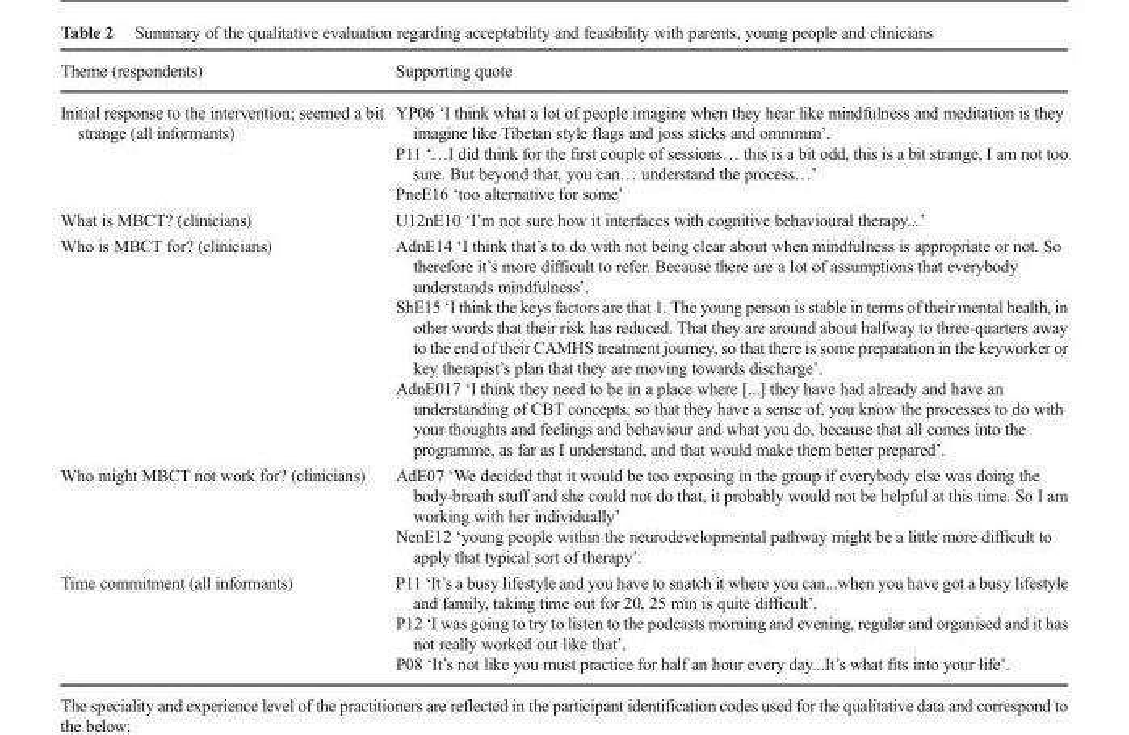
<table><thead><tr><td>Theme (respondents)</td><td>Supporting quote</td></tr></thead><tbody><tr><td>Initial response to the intervention; seemed a bit strange (all informants)</td><td>YP06 ‘I think what a lot of people imagine when they hear like mindfulness and meditation is they imagine like Tibetan style flags and joss sticks and ommmm’. P11 ‘…I did think for the first couple of sessions… this is a bit odd, this is a bit strange, I am not too sure. But beyond that, you can… understand the process…’ PneE16 ‘too alternative for some’</td></tr><tr><td>What is MBCT? (clinicians)</td><td>U12nE10 ‘I’m not sure how it interfaces with cognitive behavioural therapy...’</td></tr><tr><td>Who is MBCT for? (clinicians)</td><td>AdnE14 ‘I think that’s to do with not being clear about when mindfulness is appropriate or not. So therefore it’s more difficult to refer. Because there are a lot of assumptions that everybody understands mindfulness’. ShE15 ‘I think the keys factors are that 1. The young person is stable in terms of their mental health, in other words that their risk has reduced. That they are around about halfway to three-quarters away to the end of their CAMHS treatment journey, so that there is some preparation in the keyworker or key therapist’s plan that they are moving towards discharge’. AdnE017 ‘I think they need to be in a place where [...] they have had already and have an understanding of CBT concepts, so that they have a sense of, you know the processes to do with your thoughts and feelings and behaviour and what you do, because that all comes into the programme, as far as I understand, and that would make them better prepared’.</td></tr><tr><td>Who might MBCT not work for? (clinicians)</td><td>AdE07 ‘We decided that it would be too exposing in the group if everybody else was doing the body-breath stuff and she could not do that, it probably would not be helpful at this time. So I am working with her individually’ NenE12 ‘young people within the neurodevelopmental pathway might be a little more difficult to apply that typical sort of therapy’.</td></tr><tr><td>Time commitment (all informants)</td><td>P11 ‘It’s a busy lifestyle and you have to snatch it where you can...when you have got a busy lifestyle and family, taking time out for 20, 25 min is quite difficult’. P12 ‘I was going to try to listen to the podcasts morning and evening, regular and organised and it has not really worked out like that’. P08 ‘It’s not like you must practice for half an hour every day...It’s what fits into your life’.</td></tr></tbody></table>